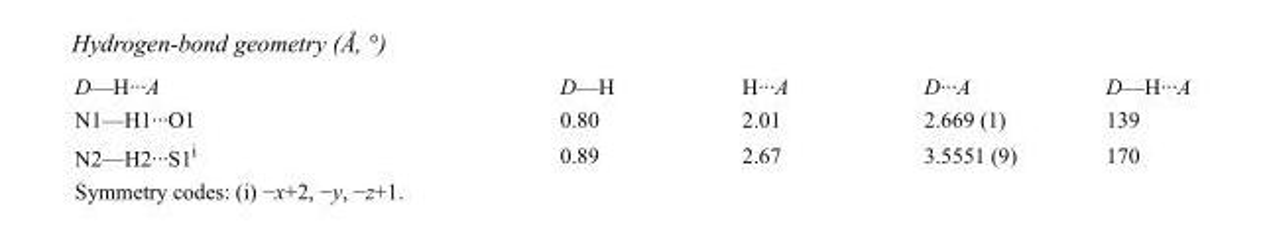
<table><tbody><tr><td>D—H···A</td><td>D—H</td><td>H···A</td><td>D···A</td><td>D—H···A</td></tr><tr><td>N1—H1···O1</td><td>0.80</td><td>2.01</td><td>2.669 (1)</td><td>139</td></tr><tr><td>N2—H2···S1<sup>i</sup></td><td>0.89</td><td>2.67</td><td>3.5551 (9)</td><td>170</td></tr></tbody></table>